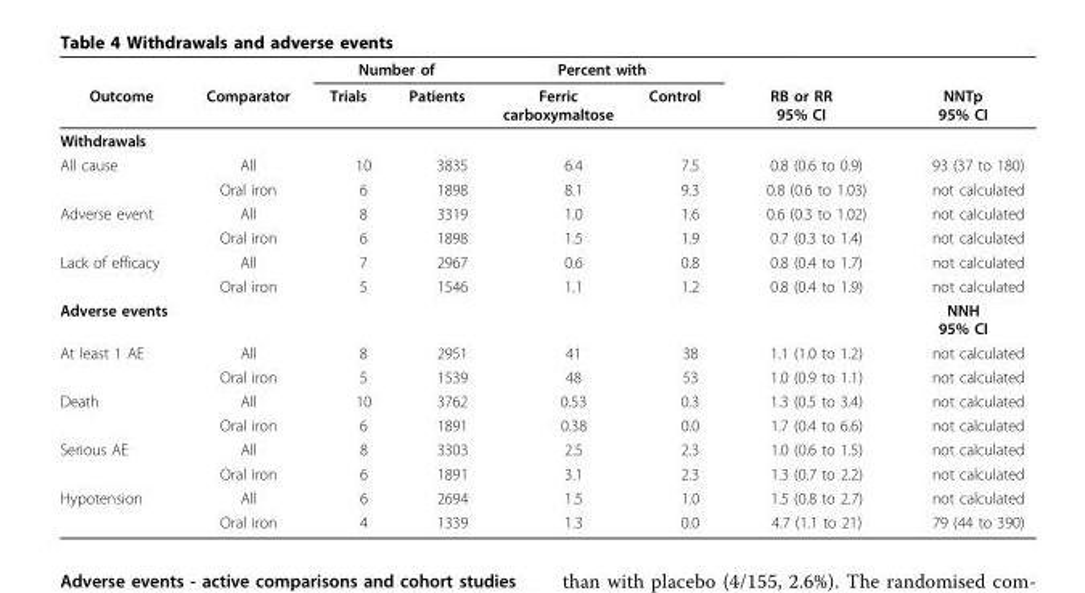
<table><thead><tr><td rowspan="2">Outcome</td><td rowspan="2">Comparator</td><td colspan="2">Number of</td><td colspan="2">Percent with</td><td rowspan="2">RB or RR 95% CI</td><td rowspan="2">NNTp 95% CI</td></tr><tr><td>Trials</td><td>Patients</td><td>Ferric carboxymaltose</td><td>Control</td></tr></thead><tbody><tr><td colspan="8">Withdrawals</td></tr><tr><td rowspan="2">All cause</td><td>All</td><td>10</td><td>3835</td><td>6.4</td><td>7.5</td><td>0.8 (0.6 to 0.9)</td><td>93 (37 to 180)</td></tr><tr><td>Oral iron</td><td>6</td><td>1898</td><td>8.1</td><td>9.3</td><td>0.8 (0.6 to 1.03)</td><td>not calculated</td></tr><tr><td rowspan="2">Adverse event</td><td>All</td><td>8</td><td>3319</td><td>1.0</td><td>1.6</td><td>0.6 (0.3 to 1.02)</td><td>not calculated</td></tr><tr><td>Oral iron</td><td>6</td><td>1898</td><td>1.5</td><td>1.9</td><td>0.7 (0.3 to 1.4)</td><td>not calculated</td></tr><tr><td rowspan="2">Lack of efficacy</td><td>All</td><td>7</td><td>2967</td><td>0.6</td><td>0.8</td><td>0.8 (0.4 to 1.7)</td><td>not calculated</td></tr><tr><td>Oral iron</td><td>5</td><td>1546</td><td>1.1</td><td>1.2</td><td>0.8 (0.4 to 1.9)</td><td>not calculated</td></tr><tr><td colspan="7">Adverse events</td><td>NNH 95% CI</td></tr><tr><td rowspan="2">At least 1 AE</td><td>All</td><td>8</td><td>2951</td><td>41</td><td>38</td><td>1.1 (1.0 to 1.2)</td><td>not calculated</td></tr><tr><td>Oral iron</td><td>5</td><td>1539</td><td>48</td><td>53</td><td>1.0 (0.9 to 1.1)</td><td>not calculated</td></tr><tr><td rowspan="2">Death</td><td>All</td><td>10</td><td>3762</td><td>0.53</td><td>0.3</td><td>1.3 (0.5 to 3.4)</td><td>not calculated</td></tr><tr><td>Oral iron</td><td>6</td><td>1891</td><td>0.38</td><td>0.0</td><td>1.7 (0.4 to 6.6)</td><td>not calculated</td></tr><tr><td rowspan="2">Serious AE</td><td>All</td><td>8</td><td>3303</td><td>2.5</td><td>2.3</td><td>1.0 (0.6 to 1.5)</td><td>not calculated</td></tr><tr><td>Oral iron</td><td>6</td><td>1891</td><td>3.1</td><td>2.3</td><td>1.3 (0.7 to 2.2)</td><td>not calculated</td></tr><tr><td rowspan="2">Hypotension</td><td>All</td><td>6</td><td>2694</td><td>1.5</td><td>1.0</td><td>1.5 (0.8 to 2.7)</td><td>not calculated</td></tr><tr><td>Oral iron</td><td>4</td><td>1339</td><td>1.3</td><td>0.0</td><td>4.7 (1.1 to 21)</td><td>79 (44 to 390)</td></tr></tbody></table>